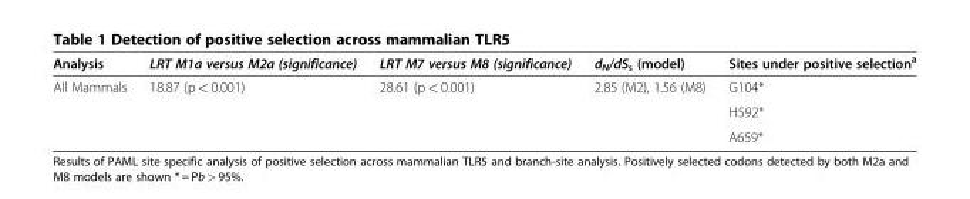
<table><thead><tr><td>Analysis</td><td>LRT M1a versus M2a (significance)</td><td>LRT M7 versus M8 (significance)</td><td>d<sub>N</sub>/dS<sub>s</sub> (model)</td><td>Sites under positive selection<sup>a</sup></td></tr></thead><tbody><tr><td rowspan="3">All Mammals</td><td>18.87 (p &lt; 0.001)</td><td>28.61 (p &lt; 0.001)</td><td>2.85 (M2), 1.56 (M8)</td><td>G104*</td></tr><tr><td></td><td></td><td></td><td>H592*</td></tr><tr><td></td><td></td><td></td><td>A659*</td></tr></tbody></table>